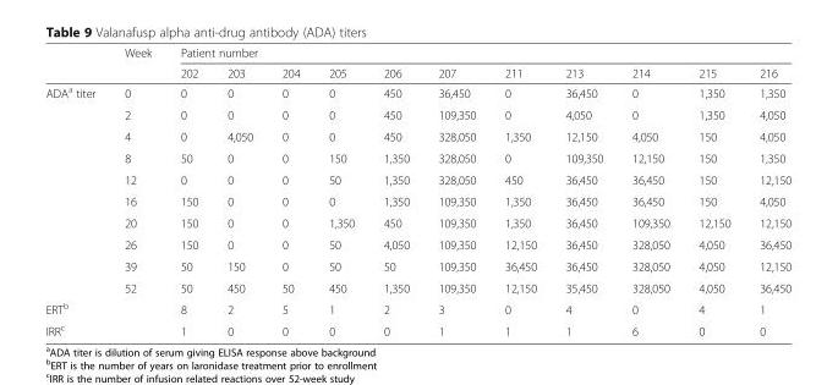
<table><thead><tr><td rowspan="2"></td><td rowspan="2">Week</td><td colspan="11">Patient number</td></tr><tr><td>202</td><td>203</td><td>204</td><td>205</td><td>206</td><td>207</td><td>211</td><td>213</td><td>214</td><td>215</td><td>216</td></tr></thead><tbody><tr><td rowspan="10">ADA<sup>a</sup> titer</td><td>0</td><td>0</td><td>0</td><td>0</td><td>0</td><td>450</td><td>36,450</td><td>0</td><td>36,450</td><td>0</td><td>1,350</td><td>1,350</td></tr><tr><td>2</td><td>0</td><td>0</td><td>0</td><td>0</td><td>450</td><td>109,350</td><td>0</td><td>4,050</td><td>0</td><td>1,350</td><td>4,050</td></tr><tr><td>4</td><td>0</td><td>4,050</td><td>0</td><td>0</td><td>450</td><td>328,050</td><td>1,350</td><td>12,150</td><td>4,050</td><td>150</td><td>4,050</td></tr><tr><td>8</td><td>50</td><td>0</td><td>0</td><td>150</td><td>1,350</td><td>328,050</td><td>0</td><td>109,350</td><td>12,150</td><td>150</td><td>1,350</td></tr><tr><td>12</td><td>0</td><td>0</td><td>0</td><td>50</td><td>1,350</td><td>328,050</td><td>450</td><td>36,450</td><td>36,450</td><td>150</td><td>12,150</td></tr><tr><td>16</td><td>150</td><td>0</td><td>0</td><td>0</td><td>1,350</td><td>109,350</td><td>1,350</td><td>36,450</td><td>36,450</td><td>150</td><td>4,050</td></tr><tr><td>20</td><td>150</td><td>0</td><td>0</td><td>1,350</td><td>450</td><td>109,350</td><td>1,350</td><td>36,450</td><td>109,350</td><td>12,150</td><td>12,150</td></tr><tr><td>26</td><td>150</td><td>0</td><td>0</td><td>50</td><td>4,050</td><td>109,350</td><td>12,150</td><td>36,450</td><td>328,050</td><td>4,050</td><td>36,450</td></tr><tr><td>39</td><td>50</td><td>150</td><td>0</td><td>50</td><td>50</td><td>109,350</td><td>36,450</td><td>36,450</td><td>328,050</td><td>4,050</td><td>12,150</td></tr><tr><td>52</td><td>50</td><td>450</td><td>50</td><td>450</td><td>1,350</td><td>109,350</td><td>12,150</td><td>35,450</td><td>328,050</td><td>4,050</td><td>36,450</td></tr><tr><td>ERT<sup>b</sup></td><td></td><td>8</td><td>2</td><td>5</td><td>1</td><td>2</td><td>3</td><td>0</td><td>4</td><td>0</td><td>4</td><td>1</td></tr><tr><td>IRR<sup>c</sup></td><td></td><td>1</td><td>0</td><td>0</td><td>0</td><td>0</td><td>1</td><td>1</td><td>1</td><td>6</td><td>0</td><td>0</td></tr></tbody></table>